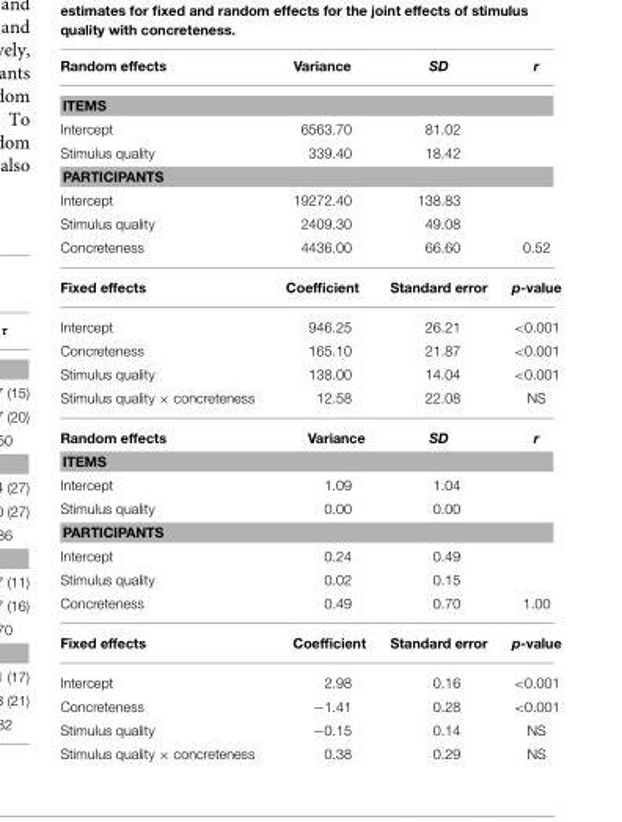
<table><thead><tr><td>Random effects</td><td>Variance</td><td>SD</td><td>r</td></tr></thead><tbody><tr><td colspan="4">ITEMS</td></tr><tr><td>Intercept</td><td>6563.70</td><td>81.02</td><td></td></tr><tr><td>Stimulus quality</td><td>339.40</td><td>18.42</td><td></td></tr><tr><td colspan="4">PARTICIPANTS</td></tr><tr><td>Intercept</td><td>19272.40</td><td>138.83</td><td></td></tr><tr><td>Stimulus quality</td><td>2409.30</td><td>49.08</td><td></td></tr><tr><td>Concreteness</td><td>4436.00</td><td>66.60</td><td>0.52</td></tr><tr><td>Fixed effects</td><td>Coefficient</td><td>Standard error</td><td>p-value</td></tr><tr><td>Intercept</td><td>946.25</td><td>26.21</td><td>&lt;0.001</td></tr><tr><td>Concreteness</td><td>165.10</td><td>21.87</td><td>&lt;0.001</td></tr><tr><td>Stimulus quality</td><td>138.00</td><td>14.04</td><td>&lt;0.001</td></tr><tr><td>Stimulus quality × concreteness</td><td>12.58</td><td>22.08</td><td>NS</td></tr><tr><td>Random effects</td><td>Variance</td><td>SD</td><td>r</td></tr><tr><td colspan="4">ITEMS</td></tr><tr><td>Intercept</td><td>1.09</td><td>1.04</td><td></td></tr><tr><td>Stimulus quality</td><td>0.00</td><td>0.00</td><td></td></tr><tr><td colspan="4">PARTICIPANTS</td></tr><tr><td>Intercept</td><td>0.24</td><td>0.49</td><td></td></tr><tr><td>Stimulus quality</td><td>0.02</td><td>0.15</td><td></td></tr><tr><td>Concreteness</td><td>0.49</td><td>0.70</td><td>1.00</td></tr><tr><td>Fixed effects</td><td>Coefficient</td><td>Standard error</td><td>p-value</td></tr><tr><td>Intercept</td><td>2.98</td><td>0.16</td><td>&lt;0.001</td></tr><tr><td>Concreteness</td><td>−1.41</td><td>0.28</td><td>&lt;0.001</td></tr><tr><td>Stimulus quality</td><td>−0.15</td><td>0.14</td><td>NS</td></tr><tr><td>Stimulus quality × concreteness</td><td>0.38</td><td>0.29</td><td>NS</td></tr></tbody></table>